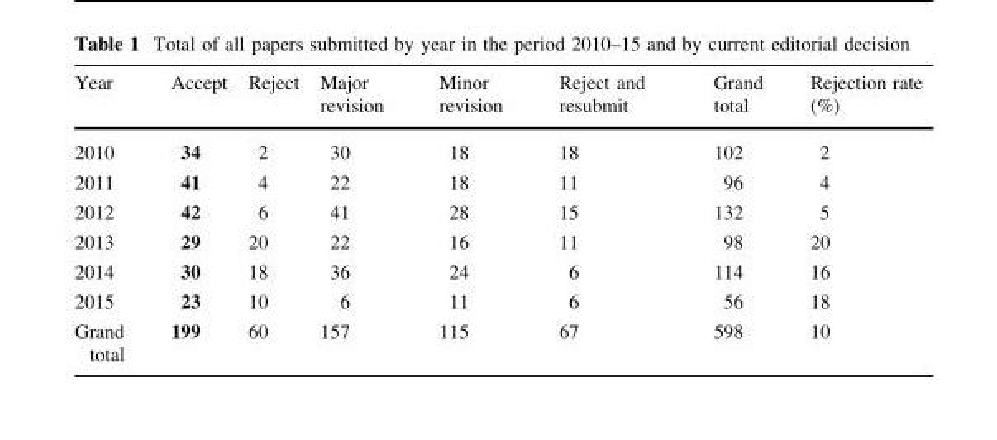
<table><thead><tr><td>Year</td><td>Accept</td><td>Reject</td><td>Major revision</td><td>Minor revision</td><td>Reject and resubmit</td><td>Grand total</td><td>Rejection rate (%)</td></tr></thead><tbody><tr><td>2010</td><td>34</td><td>2</td><td>30</td><td>18</td><td>18</td><td>102</td><td>2</td></tr><tr><td>2011</td><td>41</td><td>4</td><td>22</td><td>18</td><td>11</td><td>96</td><td>4</td></tr><tr><td>2012</td><td>42</td><td>6</td><td>41</td><td>28</td><td>15</td><td>132</td><td>5</td></tr><tr><td>2013</td><td>29</td><td>20</td><td>22</td><td>16</td><td>11</td><td>98</td><td>20</td></tr><tr><td>2014</td><td>30</td><td>18</td><td>36</td><td>24</td><td>6</td><td>114</td><td>16</td></tr><tr><td>2015</td><td>23</td><td>10</td><td>6</td><td>11</td><td>6</td><td>56</td><td>18</td></tr><tr><td>Grand total</td><td>199</td><td>60</td><td>157</td><td>115</td><td>67</td><td>598</td><td>10</td></tr></tbody></table>